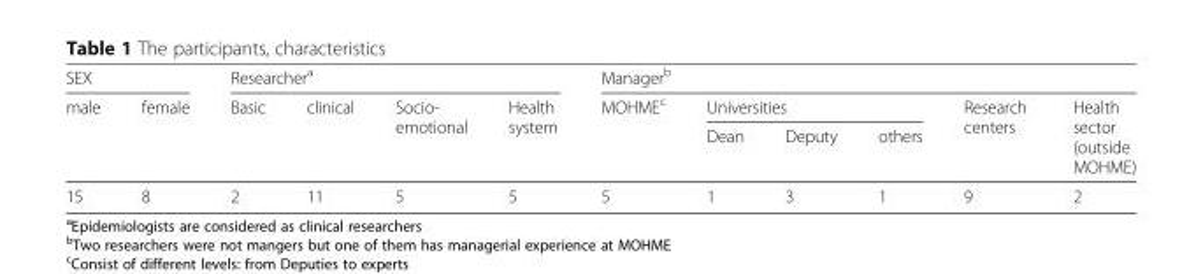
<table><thead><tr><td colspan="2">SEX</td><td colspan="4">Researcher<sup>a</sup></td><td colspan="6">Manager<sup>b</sup></td></tr><tr><td rowspan="2">male</td><td rowspan="2">female</td><td rowspan="2">Basic</td><td rowspan="2">clinical</td><td rowspan="2">Socio- emotional</td><td rowspan="2">Health system</td><td rowspan="2">MOHME<sup>c</sup></td><td colspan="3">Universities</td><td rowspan="2">Research centers</td><td rowspan="2">Health sector (outside MOHME)</td></tr><tr><td>Dean</td><td>Deputy</td><td>others</td></tr></thead><tbody><tr><td>15</td><td>8</td><td>2</td><td>11</td><td>5</td><td>5</td><td>5</td><td>1</td><td>3</td><td>1</td><td>9</td><td>2</td></tr></tbody></table>